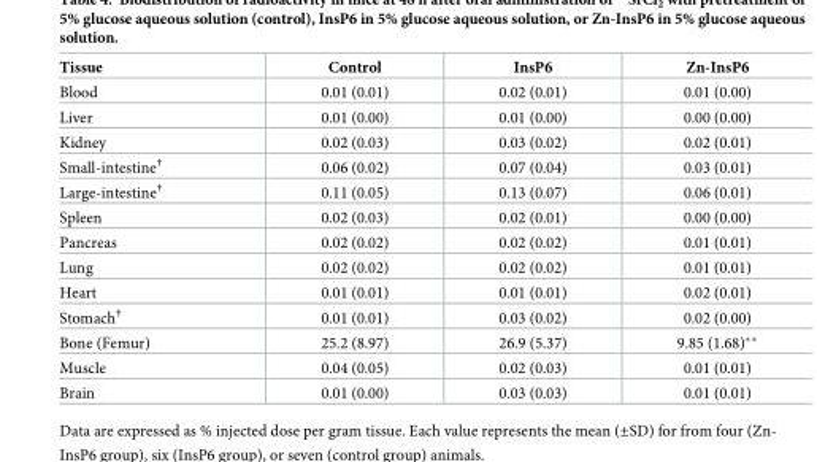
<table><thead><tr><td>Tissue</td><td>Control</td><td>InsP6</td><td>Zn-InsP6</td></tr></thead><tbody><tr><td>Blood</td><td>0.01 (0.01)</td><td>0.02 (0.01)</td><td>0.01 (0.00)</td></tr><tr><td>Liver</td><td>0.01 (0.00)</td><td>0.01 (0.00)</td><td>0.00 (0.00)</td></tr><tr><td>Kidney</td><td>0.02 (0.03)</td><td>0.03 (0.02)</td><td>0.02 (0.01)</td></tr><tr><td>Small-intestine<sup>†</sup></td><td>0.06 (0.02)</td><td>0.07 (0.04)</td><td>0.03 (0.01)</td></tr><tr><td>Large-intestine<sup>†</sup></td><td>0.11 (0.05)</td><td>0.13 (0.07)</td><td>0.06 (0.01)</td></tr><tr><td>Spleen</td><td>0.02 (0.03)</td><td>0.02 (0.01)</td><td>0.00 (0.00)</td></tr><tr><td>Pancreas</td><td>0.02 (0.02)</td><td>0.02 (0.02)</td><td>0.01 (0.01)</td></tr><tr><td>Lung</td><td>0.02 (0.02)</td><td>0.02 (0.02)</td><td>0.01 (0.01)</td></tr><tr><td>Heart</td><td>0.01 (0.01)</td><td>0.01 (0.01)</td><td>0.02 (0.01)</td></tr><tr><td>Stomach<sup>†</sup></td><td>0.01 (0.01)</td><td>0.03 (0.02)</td><td>0.02 (0.00)</td></tr><tr><td>Bone (Femur)</td><td>25.2 (8.97)</td><td>26.9 (5.37)</td><td>9.85 (1.68)**</td></tr><tr><td>Muscle</td><td>0.04 (0.05)</td><td>0.02 (0.03)</td><td>0.01 (0.01)</td></tr><tr><td>Brain</td><td>0.01 (0.00)</td><td>0.03 (0.03)</td><td>0.01 (0.01)</td></tr></tbody></table>